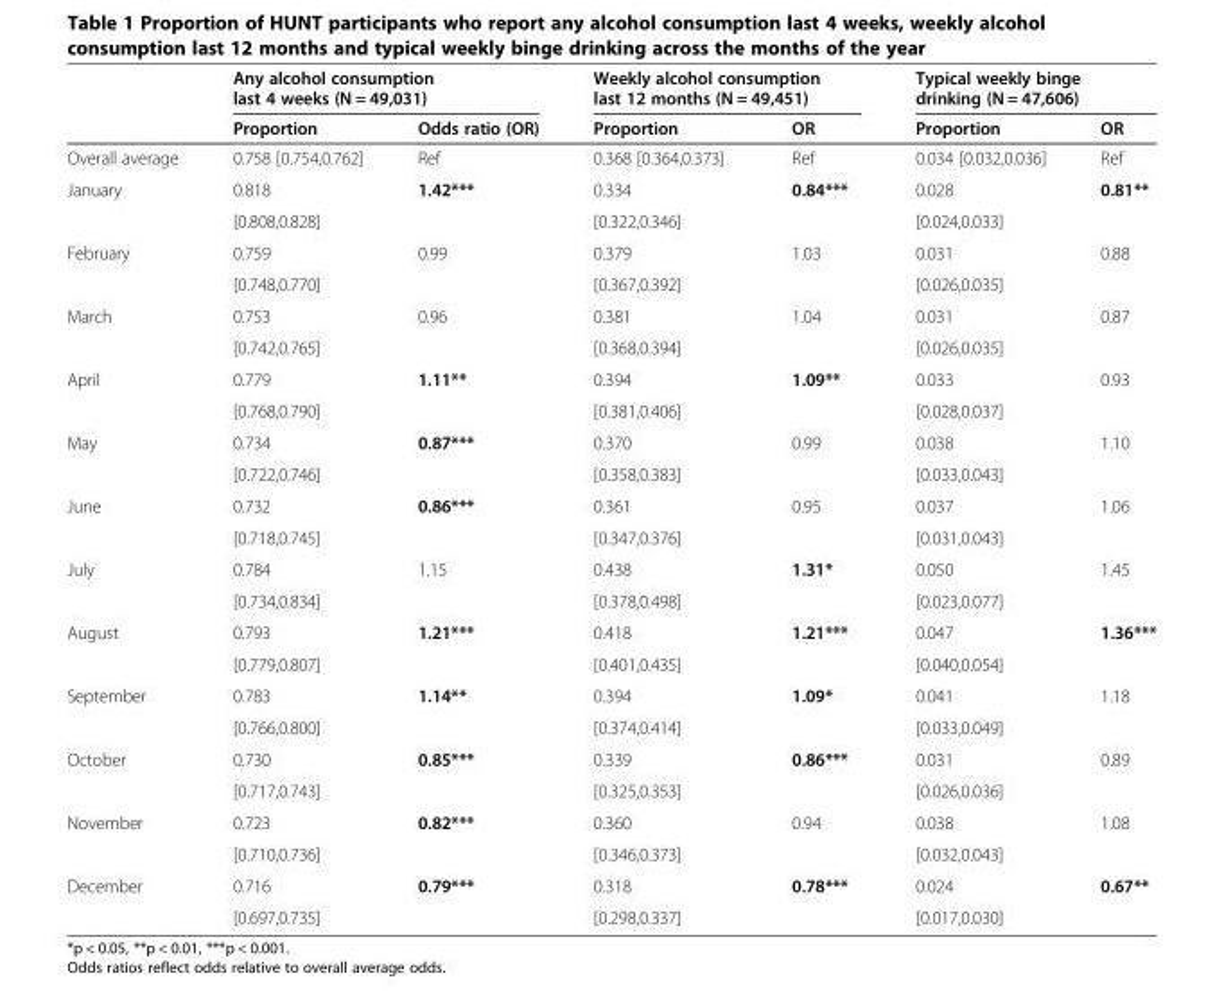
<table><thead><tr><td rowspan="2"></td><td colspan="2">Any alcohol consumption last 4 weeks (N = 49,031)</td><td colspan="2">Weekly alcohol consumption last 12 months (N = 49,451)</td><td colspan="2">Typical weekly binge drinking (N = 47,606)</td></tr><tr><td>Proportion</td><td>Odds ratio (OR)</td><td>Proportion</td><td>OR</td><td>Proportion</td><td>OR</td></tr></thead><tbody><tr><td>Overall average</td><td>0.758 [0.754,0.762]</td><td>Ref</td><td>0.368 [0.364,0.373]</td><td>Ref</td><td>0.034 [0.032,0.036]</td><td>Ref</td></tr><tr><td rowspan="2">January</td><td>0.818</td><td>1.42***</td><td>0.334</td><td>0.84***</td><td>0.028</td><td>0.81**</td></tr><tr><td>[0.808,0.828]</td><td></td><td>[0.322,0.346]</td><td></td><td>[0.024,0.033]</td><td></td></tr><tr><td rowspan="2">February</td><td>0.759</td><td>0.99</td><td>0.379</td><td>1.03</td><td>0.031</td><td>0.88</td></tr><tr><td>[0.748,0.770]</td><td></td><td>[0.367,0.392]</td><td></td><td>[0.026,0.035]</td><td></td></tr><tr><td rowspan="2">March</td><td>0.753</td><td>0.96</td><td>0.381</td><td>1.04</td><td>0.031</td><td>0.87</td></tr><tr><td>[0.742,0.765]</td><td></td><td>[0.368,0.394]</td><td></td><td>[0.026,0.035]</td><td></td></tr><tr><td rowspan="2">April</td><td>0.779</td><td>1.11**</td><td>0.394</td><td>1.09**</td><td>0.033</td><td>0.93</td></tr><tr><td>[0.768,0.790]</td><td></td><td>[0.381,0.406]</td><td></td><td>[0.028,0.037]</td><td></td></tr><tr><td rowspan="2">May</td><td>0.734</td><td>0.87***</td><td>0.370</td><td>0.99</td><td>0.038</td><td>1.10</td></tr><tr><td>[0.722,0.746]</td><td></td><td>[0.358,0.383]</td><td></td><td>[0.033,0.043]</td><td></td></tr><tr><td rowspan="2">June</td><td>0.732</td><td>0.86***</td><td>0.361</td><td>0.95</td><td>0.037</td><td>1.06</td></tr><tr><td>[0.718,0.745]</td><td></td><td>[0.347,0.376]</td><td></td><td>[0.031,0.043]</td><td></td></tr><tr><td rowspan="2">July</td><td>0.784</td><td>1.15</td><td>0.438</td><td>1.31*</td><td>0.050</td><td>1.45</td></tr><tr><td>[0.734,0.834]</td><td></td><td>[0.378,0.498]</td><td></td><td>[0.023,0.077]</td><td></td></tr><tr><td rowspan="2">August</td><td>0.793</td><td>1.21***</td><td>0.418</td><td>1.21***</td><td>0.047</td><td>1.36***</td></tr><tr><td>[0.779,0.807]</td><td></td><td>[0.401,0.435]</td><td></td><td>[0.040,0.054]</td><td></td></tr><tr><td rowspan="2">September</td><td>0.783</td><td>1.14**</td><td>0.394</td><td>1.09*</td><td>0.041</td><td>1.18</td></tr><tr><td>[0.766,0.800]</td><td></td><td>[0.374,0.414]</td><td></td><td>[0.033,0.049]</td><td></td></tr><tr><td rowspan="2">October</td><td>0.730</td><td>0.85***</td><td>0.339</td><td>0.86***</td><td>0.031</td><td>0.89</td></tr><tr><td>[0.717,0.743]</td><td></td><td>[0.325,0.353]</td><td></td><td>[0.026,0.036]</td><td></td></tr><tr><td rowspan="2">November</td><td>0.723</td><td>0.82***</td><td>0.360</td><td>0.94</td><td>0.038</td><td>1.08</td></tr><tr><td>[0.710,0.736]</td><td></td><td>[0.346,0.373]</td><td></td><td>[0.032,0.043]</td><td></td></tr><tr><td rowspan="2">December</td><td>0.716</td><td>0.79***</td><td>0.318</td><td>0.78***</td><td>0.024</td><td>0.67**</td></tr><tr><td>[0.697,0.735]</td><td></td><td>[0.298,0.337]</td><td></td><td>[0.017,0.030]</td><td></td></tr></tbody></table>